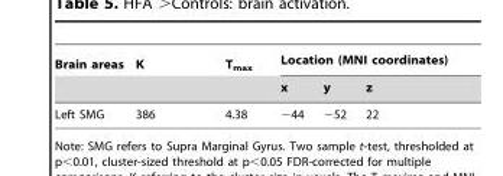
<table><thead><tr><td rowspan="2">Brain areas</td><td rowspan="2">K</td><td rowspan="2">T<sub>max</sub></td><td colspan="3">Location (MNI coordinates)</td></tr><tr><td>x</td><td>y</td><td>z</td></tr></thead><tbody><tr><td>Left SMG</td><td>386</td><td>4.38</td><td>−44</td><td>−52</td><td>22</td></tr></tbody></table>